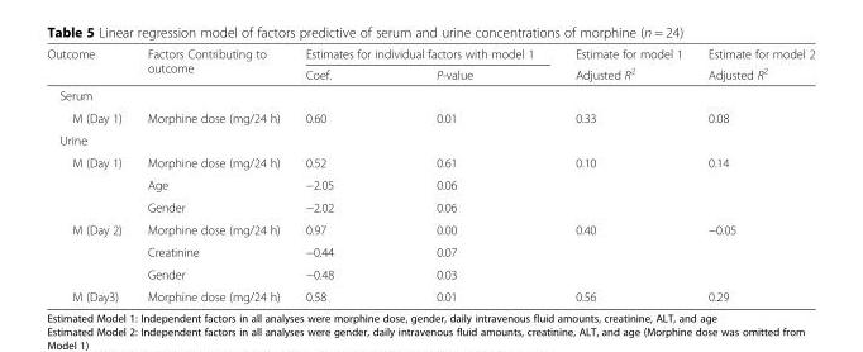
<table><thead><tr><td rowspan="2">Outcome</td><td rowspan="2">Factors Contributing to outcome</td><td colspan="2">Estimates for individual factors with model 1</td><td rowspan="2">Estimate for model 1 Adjusted R<sup>2</sup></td><td rowspan="2">Estimate for model 2 Adjusted R<sup>2</sup></td></tr><tr><td>Coef.</td><td>P-value</td></tr></thead><tbody><tr><td colspan="6">Serum</td></tr><tr><td>M (Day 1)</td><td>Morphine dose (mg/24 h)</td><td>0.60</td><td>0.01</td><td>0.33</td><td>0.08</td></tr><tr><td colspan="6">Urine</td></tr><tr><td rowspan="3">M (Day 1)</td><td>Morphine dose (mg/24 h)</td><td>0.52</td><td>0.61</td><td rowspan="3">0.10</td><td rowspan="3">0.14</td></tr><tr><td>Age</td><td>−2.05</td><td>0.06</td></tr><tr><td>Gender</td><td>−2.02</td><td>0.06</td></tr><tr><td rowspan="3">M (Day 2)</td><td>Morphine dose (mg/24 h)</td><td>0.97</td><td>0.00</td><td rowspan="3">0.40</td><td rowspan="3">−0.05</td></tr><tr><td>Creatinine</td><td>−0.44</td><td>0.07</td></tr><tr><td>Gender</td><td>−0.48</td><td>0.03</td></tr><tr><td>M (Day3)</td><td>Morphine dose (mg/24 h)</td><td>0.58</td><td>0.01</td><td>0.56</td><td>0.29</td></tr></tbody></table>